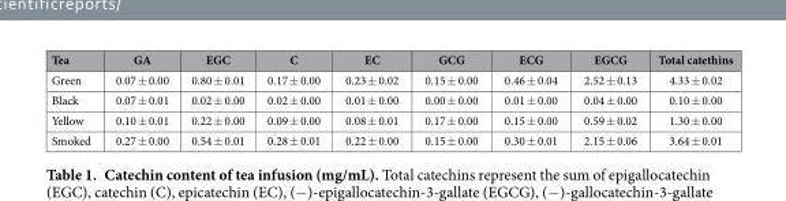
<table><thead><tr><td>Tea</td><td>GA</td><td>EGC</td><td>C</td><td>EC</td><td>GCG</td><td>ECG</td><td>EGCG</td><td>Total catethins</td></tr></thead><tbody><tr><td>Green</td><td>0.07 ± 0.00</td><td>0.80 ± 0.01</td><td>0.17 ± 0.00</td><td>0.23 ± 0.02</td><td>0.15 ± 0.00</td><td>0.46 ± 0.04</td><td>2.52 ± 0.13</td><td>4.33 ± 0.02</td></tr><tr><td>Black</td><td>0.07 ± 0.01</td><td>0.02 ± 0.00</td><td>0.02 ± 0.00</td><td>0.01 ± 0.00</td><td>0.00 ± 0.00</td><td>0.01 ± 0.00</td><td>0.04 ± 0.00</td><td>0.10 ± 0.00</td></tr><tr><td>Yellow</td><td>0.10 ± 0.01</td><td>0.22 ± 0.00</td><td>0.09 ± 0.00</td><td>0.08 ± 0.01</td><td>0.17 ± 0.00</td><td>0.15 ± 0.00</td><td>0.59 ± 0.02</td><td>1.30 ± 0.00</td></tr><tr><td>Smoked</td><td>0.27 ± 0.00</td><td>0.54 ± 0.01</td><td>0.28 ± 0.01</td><td>0.22 ± 0.00</td><td>0.15 ± 0.00</td><td>0.30 ± 0.01</td><td>2.15 ± 0.06</td><td>3.64 ± 0.01</td></tr></tbody></table>